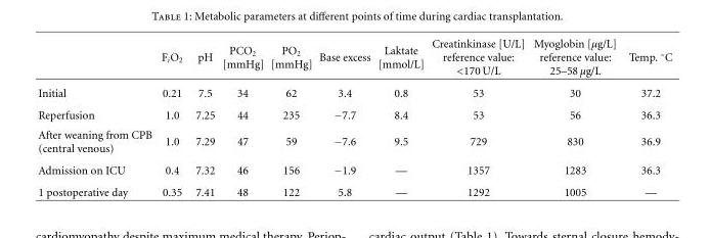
<table><thead><tr><td></td><td>F<sub>i</sub>O<sub>2</sub></td><td>pH</td><td>PCO<sub>2</sub> [mmHg]</td><td>PO<sub>2</sub> [mmHg]</td><td>Base excess</td><td>Laktate [mmol/L]</td><td>Creatinkinase [U/L] reference value: &lt;170 U/L</td><td>Myoglobin [µg/L] reference value: 25–58 µg/L</td><td>Temp. ◦C</td></tr></thead><tbody><tr><td>Initial</td><td>0.21</td><td>7.5</td><td>34</td><td>62</td><td>3.4</td><td>0.8</td><td>53</td><td>30</td><td>37.2</td></tr><tr><td>Reperfusion</td><td>1.0</td><td>7.25</td><td>44</td><td>235</td><td>−7.7</td><td>8.4</td><td>53</td><td>56</td><td>36.3</td></tr><tr><td>After weaning from CPB (central venous)</td><td>1.0</td><td>7.29</td><td>47</td><td>59</td><td>−7.6</td><td>9.5</td><td>729</td><td>830</td><td>36.9</td></tr><tr><td>Admission on ICU</td><td>0.4</td><td>7.32</td><td>46</td><td>156</td><td>−1.9</td><td>—</td><td>1357</td><td>1283</td><td>36.3</td></tr><tr><td>1 postoperative day</td><td>0.35</td><td>7.41</td><td>48</td><td>122</td><td>5.8</td><td>—</td><td>1292</td><td>1005</td><td>—</td></tr></tbody></table>